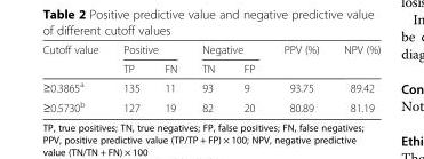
<table><thead><tr><td rowspan="2">Cutoff value</td><td colspan="2">Positive</td><td colspan="2">Negative</td><td rowspan="2">PPV (%)</td><td rowspan="2">NPV (%)</td></tr><tr><td>TP</td><td>FN</td><td>TN</td><td>FP</td></tr></thead><tbody><tr><td>≥0.3865<sup>a</sup></td><td>135</td><td>11</td><td>93</td><td>9</td><td>93.75</td><td>89.42</td></tr><tr><td>≥0.5730<sup>b</sup></td><td>127</td><td>19</td><td>82</td><td>20</td><td>80.89</td><td>81.19</td></tr></tbody></table>